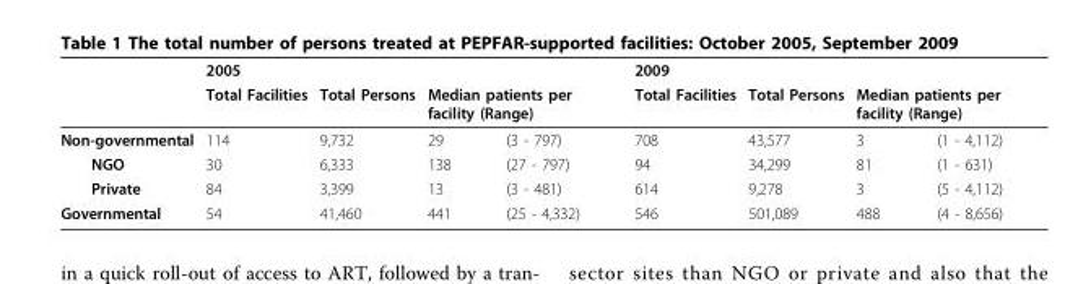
<table><thead><tr><td rowspan="2"></td><td rowspan="2">2005 Total Facilities</td><td rowspan="2">Total Persons</td><td></td><td></td><td rowspan="2">2009 Total Facilities</td><td rowspan="2">Total Persons</td><td></td><td></td></tr><tr><td colspan="2">Median patients per facility (Range)</td><td colspan="2">Median patients per facility (Range)</td></tr></thead><tbody><tr><td>Non-governmental</td><td>114</td><td>9,732</td><td>29</td><td>(3 - 797)</td><td>708</td><td>43,577</td><td>3</td><td>(1 - 4,112)</td></tr><tr><td>NGO</td><td>30</td><td>6,333</td><td>138</td><td>(27 - 797)</td><td>94</td><td>34,299</td><td>81</td><td>(1 - 631)</td></tr><tr><td>Private</td><td>84</td><td>3,399</td><td>13</td><td>(3 - 481)</td><td>614</td><td>9,278</td><td>3</td><td>(5 - 4,112)</td></tr><tr><td>Governmental</td><td>54</td><td>41,460</td><td>441</td><td>(25 - 4,332)</td><td>546</td><td>501,089</td><td>488</td><td>(4 - 8,656)</td></tr></tbody></table>